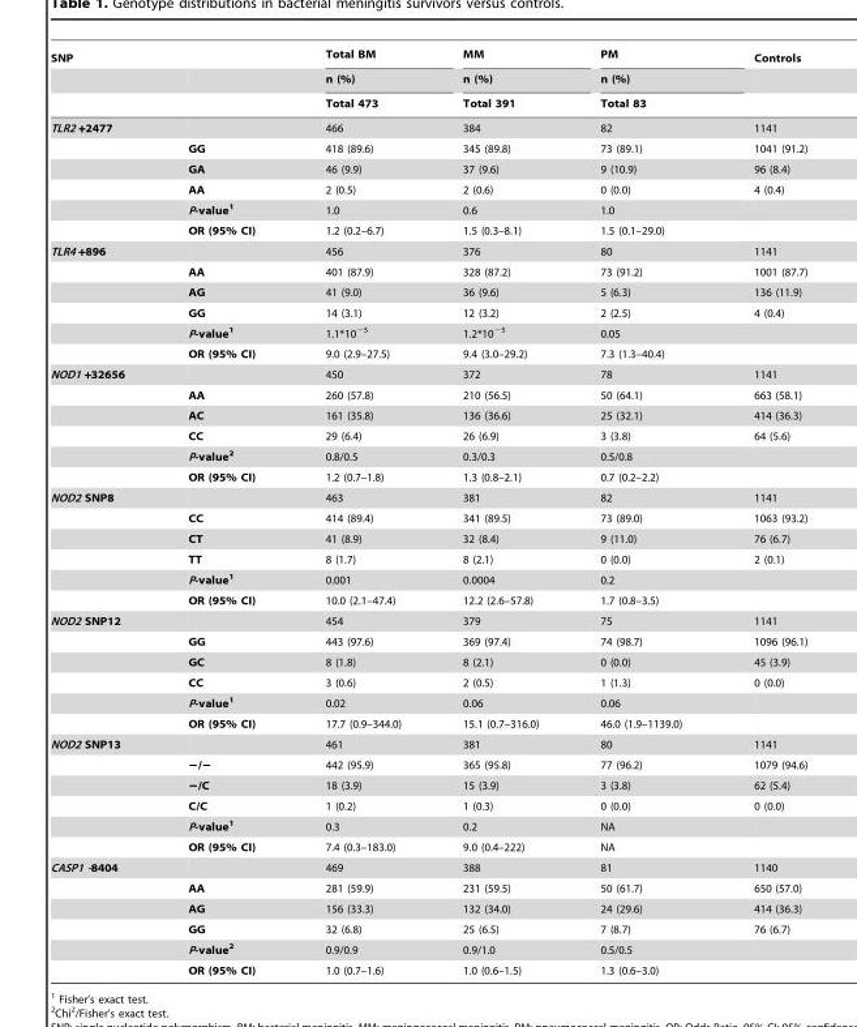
<table><thead><tr><td rowspan="3">SNP</td><td rowspan="3"></td><td rowspan="3">Total BM n (%) Total 473</td><td rowspan="3">MM n (%) Total 391</td><td rowspan="3">PM n (%) Total 83</td><td rowspan="3">Controls</td></tr><tr></tr><tr></tr></thead><tbody><tr><td rowspan="6">TLR2 +2477</td><td></td><td>466</td><td>384</td><td>82</td><td>1141</td></tr><tr><td>GG</td><td>418 (89.6)</td><td>345 (89.8)</td><td>73 (89.1)</td><td>1041 (91.2)</td></tr><tr><td>GA</td><td>46 (9.9)</td><td>37 (9.6)</td><td>9 (10.9)</td><td>96 (8.4)</td></tr><tr><td>AA</td><td>2 (0.5)</td><td>2 (0.6)</td><td>0 (0.0)</td><td>4 (0.4)</td></tr><tr><td>P-value<sup>1</sup></td><td>1.0</td><td>0.6</td><td>1.0</td><td></td></tr><tr><td>OR (95% CI)</td><td>1.2 (0.2–6.7)</td><td>1.5 (0.3–8.1)</td><td>1.5 (0.1–29.0)</td><td></td></tr><tr><td rowspan="6">TLR4 +896</td><td></td><td>456</td><td>376</td><td>80</td><td>1141</td></tr><tr><td>AA</td><td>401 (87.9)</td><td>328 (87.2)</td><td>73 (91.2)</td><td>1001 (87.7)</td></tr><tr><td>AG</td><td>41 (9.0)</td><td>36 (9.6)</td><td>5 (6.3)</td><td>136 (11.9)</td></tr><tr><td>GG</td><td>14 (3.1)</td><td>12 (3.2)</td><td>2 (2.5)</td><td>4 (0.4)</td></tr><tr><td>P-value<sup>1</sup></td><td>1.1*10<sup>−5</sup></td><td>1.2*10<sup>−5</sup></td><td>0.05</td><td></td></tr><tr><td>OR (95% CI)</td><td>9.0 (2.9–27.5)</td><td>9.4 (3.0–29.2)</td><td>7.3 (1.3–40.4)</td><td></td></tr><tr><td rowspan="6">NOD1 +32656</td><td></td><td>450</td><td>372</td><td>78</td><td>1141</td></tr><tr><td>AA</td><td>260 (57.8)</td><td>210 (56.5)</td><td>50 (64.1)</td><td>663 (58.1)</td></tr><tr><td>AC</td><td>161 (35.8)</td><td>136 (36.6)</td><td>25 (32.1)</td><td>414 (36.3)</td></tr><tr><td>CC</td><td>29 (6.4)</td><td>26 (6.9)</td><td>3 (3.8)</td><td>64 (5.6)</td></tr><tr><td>P-value2</td><td>0.8/0.5</td><td>0.3/0.3</td><td>0.5/0.8</td><td></td></tr><tr><td>OR (95% CI)</td><td>1.2 (0.7–1.8)</td><td>1.3 (0.8–2.1)</td><td>0.7 (0.2–2.2)</td><td></td></tr><tr><td rowspan="6">NOD2 SNP8</td><td></td><td>463</td><td>381</td><td>82</td><td>1141</td></tr><tr><td>CC</td><td>414 (89.4)</td><td>341 (89.5)</td><td>73 (89.0)</td><td>1063 (93.2)</td></tr><tr><td>CT</td><td>41 (8.9)</td><td>32 (8.4)</td><td>9 (11.0)</td><td>76 (6.7)</td></tr><tr><td>TT</td><td>8 (1.7)</td><td>8 (2.1)</td><td>0 (0.0)</td><td>2 (0.1)</td></tr><tr><td>P-value<sup>1</sup></td><td>0.001</td><td>0.0004</td><td>0.2</td><td></td></tr><tr><td>OR (95% CI)</td><td>10.0 (2.1–47.4)</td><td>12.2 (2.6–57.8)</td><td>1.7 (0.8–3.5)</td><td></td></tr><tr><td rowspan="6">NOD2 SNP12</td><td></td><td>454</td><td>379</td><td>75</td><td>1141</td></tr><tr><td>GG</td><td>443 (97.6)</td><td>369 (97.4)</td><td>74 (98.7)</td><td>1096 (96.1)</td></tr><tr><td>GC</td><td>8 (1.8)</td><td>8 (2.1)</td><td>0 (0.0)</td><td>45 (3.9)</td></tr><tr><td>CC</td><td>3 (0.6)</td><td>2 (0.5)</td><td>1 (1.3)</td><td>0 (0.0)</td></tr><tr><td>P-value<sup>1</sup></td><td>0.02</td><td>0.06</td><td>0.06</td><td></td></tr><tr><td>OR (95% CI)</td><td>17.7 (0.9–344.0)</td><td>15.1 (0.7–316.0)</td><td>46.0 (1.9–1139.0)</td><td></td></tr><tr><td rowspan="6">NOD2 SNP13</td><td></td><td>461</td><td>381</td><td>80</td><td>1141</td></tr><tr><td>−/−</td><td>442 (95.9)</td><td>365 (95.8)</td><td>77 (96.2)</td><td>1079 (94.6)</td></tr><tr><td>−/C</td><td>18 (3.9)</td><td>15 (3.9)</td><td>3 (3.8)</td><td>62 (5.4)</td></tr><tr><td>C/C</td><td>1 (0.2)</td><td>1 (0.3)</td><td>0 (0.0)</td><td>0 (0.0)</td></tr><tr><td>P-value<sup>1</sup></td><td>0.3</td><td>0.2</td><td>NA</td><td></td></tr><tr><td>OR (95% CI)</td><td>7.4 (0.3–183.0)</td><td>9.0 (0.4–222)</td><td>NA</td><td></td></tr><tr><td rowspan="6">CASP1 -8404</td><td></td><td>469</td><td>388</td><td>81</td><td>1140</td></tr><tr><td>AA</td><td>281 (59.9)</td><td>231 (59.5)</td><td>50 (61.7)</td><td>650 (57.0)</td></tr><tr><td>AG</td><td>156 (33.3)</td><td>132 (34.0)</td><td>24 (29.6)</td><td>414 (36.3)</td></tr><tr><td>GG</td><td>32 (6.8)</td><td>25 (6.5)</td><td>7 (8.7)</td><td>76 (6.7)</td></tr><tr><td>P-value2</td><td>0.9/0.9</td><td>0.9/1.0</td><td>0.5/0.5</td><td></td></tr><tr><td>OR (95% CI)</td><td>1.0 (0.7–1.6)</td><td>1.0 (0.6–1.5)</td><td>1.3 (0.6–3.0)</td><td></td></tr></tbody></table>